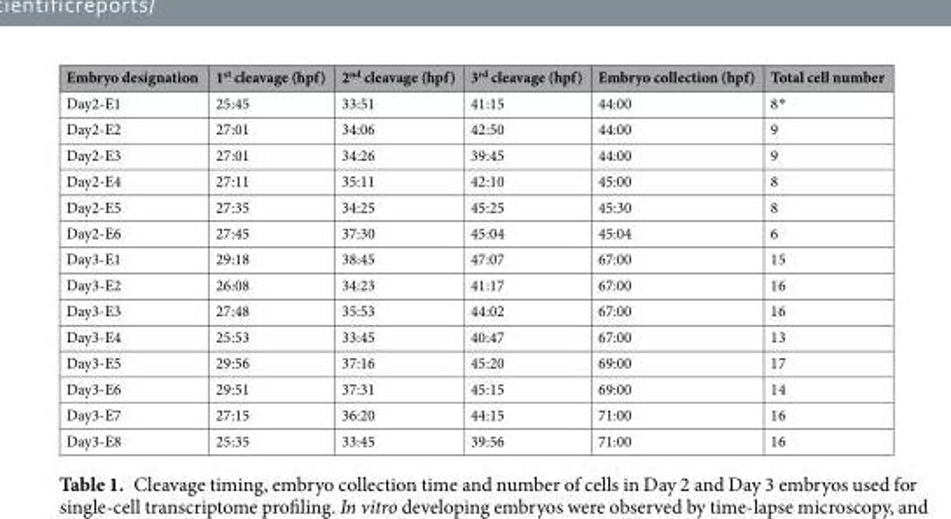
<table><thead><tr><td>Embryo designation</td><td>1<sup>st</sup> cleavage (hpf)</td><td>2<sup>nd</sup> cleavage (hpf)</td><td>3<sup>rd</sup> cleavage (hpf)</td><td>Embryo collection (hpf)</td><td>Total cell number</td></tr></thead><tbody><tr><td>Day2-E1</td><td>25:45</td><td>33:51</td><td>41:15</td><td>44:00</td><td>8*</td></tr><tr><td>Day2-E2</td><td>27:01</td><td>34:06</td><td>42:50</td><td>44:00</td><td>9</td></tr><tr><td>Day2-E3</td><td>27:01</td><td>34:26</td><td>39:45</td><td>44:00</td><td>9</td></tr><tr><td>Day2-E4</td><td>27:11</td><td>35:11</td><td>42:10</td><td>45:00</td><td>8</td></tr><tr><td>Day2-E5</td><td>27:35</td><td>34:25</td><td>45:25</td><td>45:30</td><td>8</td></tr><tr><td>Day2-E6</td><td>27:45</td><td>37:30</td><td>45:04</td><td>45:04</td><td>6</td></tr><tr><td>Day3-E1</td><td>29:18</td><td>38:45</td><td>47:07</td><td>67:00</td><td>15</td></tr><tr><td>Day3-E2</td><td>26:08</td><td>34:23</td><td>41:17</td><td>67:00</td><td>16</td></tr><tr><td>Day3-E3</td><td>27:48</td><td>35:53</td><td>44:02</td><td>67:00</td><td>16</td></tr><tr><td>Day3-E4</td><td>25:53</td><td>33:45</td><td>40:47</td><td>67:00</td><td>13</td></tr><tr><td>Day3-E5</td><td>29:56</td><td>37:16</td><td>45:20</td><td>69:00</td><td>17</td></tr><tr><td>Day3-E6</td><td>29:51</td><td>37:31</td><td>45:15</td><td>69:00</td><td>14</td></tr><tr><td>Day3-E7</td><td>27:15</td><td>36:20</td><td>44:15</td><td>71:00</td><td>16</td></tr><tr><td>Day3-E8</td><td>25:35</td><td>33:45</td><td>39:56</td><td>71:00</td><td>16</td></tr></tbody></table>